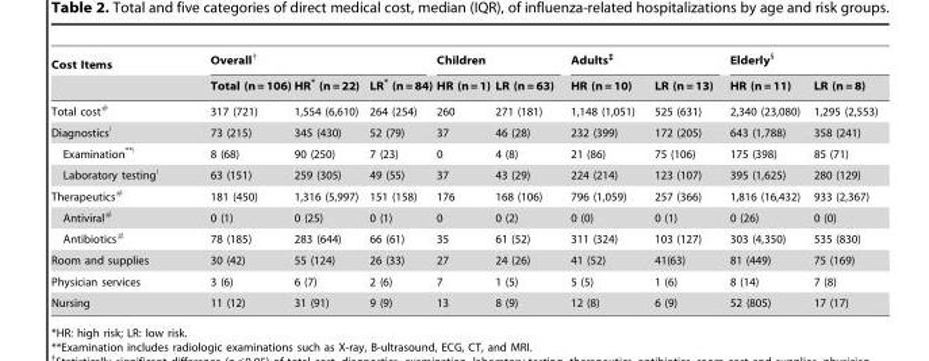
<table><thead><tr><td rowspan="2">Cost Items</td><td colspan="3">Overall†</td><td colspan="2">Children</td><td colspan="2">Adults‡</td><td colspan="2">Elderly§</td></tr><tr><td>Total (n = 106)</td><td>HR* (n = 22)</td><td>LR* (n = 84)</td><td>HR (n = 1)</td><td>LR (n = 63)</td><td>HR (n = 10)</td><td>LR (n = 13)</td><td>HR (n = 11)</td><td>LR (n = 8)</td></tr></thead><tbody><tr><td>Total cost#</td><td>317 (721)</td><td>1,554 (6,610)</td><td>264 (254)</td><td>260</td><td>271 (181)</td><td>1,148 (1,051)</td><td>525 (631)</td><td>2,340 (23,080)</td><td>1,295 (2,553)</td></tr><tr><td>Diagnostics|</td><td>73 (215)</td><td>345 (430)</td><td>52 (79)</td><td>37</td><td>46 (28)</td><td>232 (399)</td><td>172 (205)</td><td>643 (1,788)</td><td>358 (241)</td></tr><tr><td>Examination**|</td><td>8 (68)</td><td>90 (250)</td><td>7 (23)</td><td>0</td><td>4 (8)</td><td>21 (86)</td><td>75 (106)</td><td>175 (398)</td><td>85 (71)</td></tr><tr><td>Laboratory testing|</td><td>63 (151)</td><td>259 (305)</td><td>49 (55)</td><td>37</td><td>43 (29)</td><td>224 (214)</td><td>123 (107)</td><td>395 (1,625)</td><td>280 (129)</td></tr><tr><td>Therapeutics#</td><td>181 (450)</td><td>1,316 (5,997)</td><td>151 (158)</td><td>176</td><td>168 (106)</td><td>796 (1,059)</td><td>257 (366)</td><td>1,816 (16,432)</td><td>933 (2,367)</td></tr><tr><td>Antiviral#</td><td>0 (1)</td><td>0 (25)</td><td>0 (1)</td><td>0</td><td>0 (2)</td><td>0 (0)</td><td>0 (1)</td><td>0 (26)</td><td>0 (0)</td></tr><tr><td>Antibiotics#</td><td>78 (185)</td><td>283 (644)</td><td>66 (61)</td><td>35</td><td>61 (52)</td><td>311 (324)</td><td>103 (127)</td><td>303 (4,350)</td><td>535 (830)</td></tr><tr><td>Room and supplies</td><td>30 (42)</td><td>55 (124)</td><td>26 (33)</td><td>27</td><td>24 (26)</td><td>41 (52)</td><td>41(63)</td><td>81 (449)</td><td>75 (169)</td></tr><tr><td>Physician services</td><td>3 (6)</td><td>6 (7)</td><td>2 (6)</td><td>7</td><td>1 (5)</td><td>5 (5)</td><td>1 (6)</td><td>8 (14)</td><td>7 (8)</td></tr><tr><td>Nursing</td><td>11 (12)</td><td>31 (91)</td><td>9 (9)</td><td>13</td><td>8 (9)</td><td>12 (8)</td><td>6 (9)</td><td>52 (805)</td><td>17 (17)</td></tr></tbody></table>